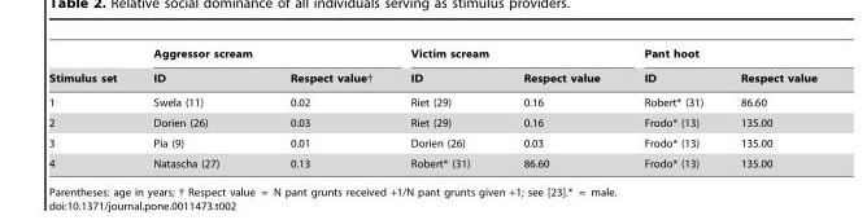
<table><thead><tr><td rowspan="2">Stimulus set</td><td colspan="2">Aggressor scream</td><td colspan="2">Victim scream</td><td colspan="2">Pant hoot</td></tr><tr><td>ID</td><td>Respect value†</td><td>ID</td><td>Respect value</td><td>ID</td><td>Respect value</td></tr></thead><tbody><tr><td>1</td><td>Swela (11)</td><td>0.02</td><td>Riet (29)</td><td>0.16</td><td>Robert* (31)</td><td>86.60</td></tr><tr><td>2</td><td>Dorien (26)</td><td>0.03</td><td>Riet (29)</td><td>0.16</td><td>Frodo* (13)</td><td>135.00</td></tr><tr><td>3</td><td>Pia (9)</td><td>0.01</td><td>Dorien (26)</td><td>0.03</td><td>Frodo* (13)</td><td>135.00</td></tr><tr><td>4</td><td>Natascha (27)</td><td>0.13</td><td>Robert* (31)</td><td>86.60</td><td>Frodo* (13)</td><td>135.00</td></tr></tbody></table>